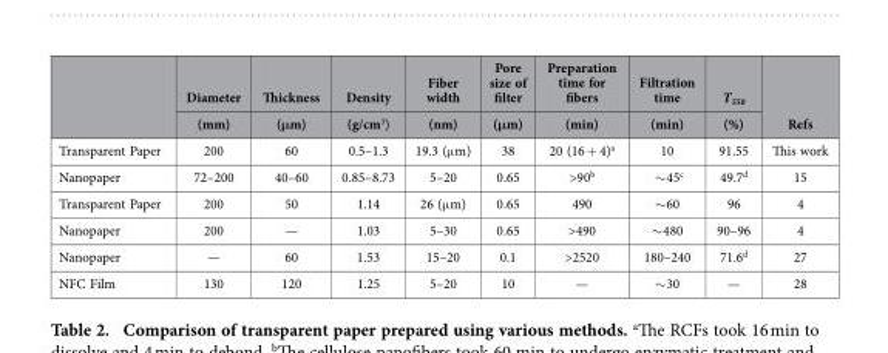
<table><thead><tr><td rowspan="2"></td><td rowspan="2">Diameter (mm)</td><td rowspan="2">Thickness (μm)</td><td rowspan="2">Density (g/cm<sup>3</sup>)</td><td rowspan="2">Fiber width (nm)</td><td rowspan="2">Pore size of filter (μm)</td><td rowspan="2">Preparation time for fibers (min)</td><td rowspan="2">Filtration time (min)</td><td rowspan="2">T<sub>550</sub> (%)</td><td rowspan="2">Refs</td></tr><tr></tr></thead><tbody><tr><td>Transparent Paper</td><td>200</td><td>60</td><td>0.5–1.3</td><td>19.3 (μ m)</td><td>38</td><td>20 (16 + 4)<sup>a</sup></td><td>10</td><td>91.55</td><td>This work</td></tr><tr><td>Nanopaper</td><td>72–200</td><td>40–60</td><td>0.85–8.73</td><td>5–20</td><td>0.65</td><td>&gt;90<sup>b</sup></td><td>∼ 45<sup>c</sup></td><td>49.7<sup>d</sup></td><td>15</td></tr><tr><td>Transparent Paper</td><td>200</td><td>50</td><td>1.14</td><td>26 (μ m)</td><td>0.65</td><td>490</td><td>∼ 60</td><td>96</td><td>4</td></tr><tr><td>Nanopaper</td><td>200</td><td>—</td><td>1.03</td><td>5–30</td><td>0.65</td><td>&gt;490</td><td>∼ 480</td><td>90–96</td><td>4</td></tr><tr><td>Nanopaper</td><td>—</td><td>60</td><td>1.53</td><td>15–20</td><td>0.1</td><td>&gt;2520</td><td>180–240</td><td>71.6<sup>d</sup></td><td>27</td></tr><tr><td>NFC Film</td><td>130</td><td>120</td><td>1.25</td><td>5–20</td><td>10</td><td>—</td><td>∼ 30</td><td>—</td><td>28</td></tr></tbody></table>